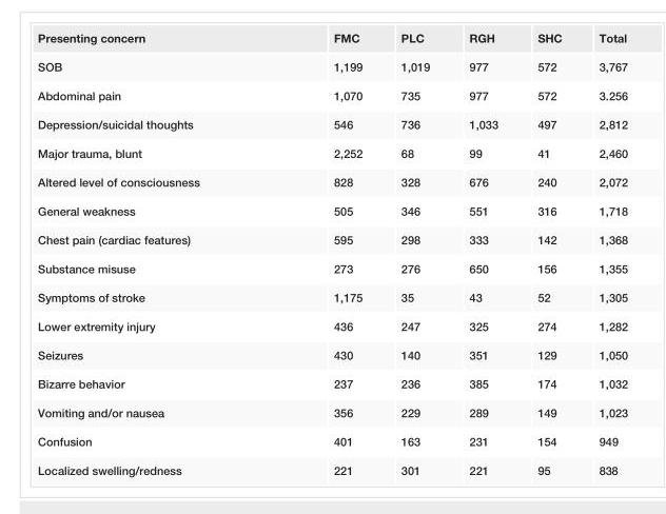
<table><tbody><tr><td>Presenting concern</td><td>FMC</td><td>PLC</td><td>RGH</td><td>SHC</td><td>Total</td></tr><tr><td>SOB</td><td>1,199</td><td>1,019</td><td>977</td><td>572</td><td>3,767</td></tr><tr><td>Abdominal pain</td><td>1,070</td><td>735</td><td>977</td><td>572</td><td>3.256</td></tr><tr><td>Depression/suicidal thoughts</td><td>546</td><td>736</td><td>1,033</td><td>497</td><td>2,812</td></tr><tr><td>Major trauma, blunt</td><td>2,252</td><td>68</td><td>99</td><td>41</td><td>2,460</td></tr><tr><td>Altered level of consciousness</td><td>828</td><td>328</td><td>676</td><td>240</td><td>2,072</td></tr><tr><td>General weakness</td><td>505</td><td>346</td><td>551</td><td>316</td><td>1,718</td></tr><tr><td>Chest pain (cardiac features)</td><td>595</td><td>298</td><td>333</td><td>142</td><td>1,368</td></tr><tr><td>Substance misuse</td><td>273</td><td>276</td><td>650</td><td>156</td><td>1,355</td></tr><tr><td>Symptoms of stroke</td><td>1,175</td><td>35</td><td>43</td><td>52</td><td>1,305</td></tr><tr><td>Lower extremity injury</td><td>436</td><td>247</td><td>325</td><td>274</td><td>1,282</td></tr><tr><td>Seizures</td><td>430</td><td>140</td><td>351</td><td>129</td><td>1,050</td></tr><tr><td>Bizarre behavior</td><td>237</td><td>236</td><td>385</td><td>174</td><td>1,032</td></tr><tr><td>Vomiting and/or nausea</td><td>356</td><td>229</td><td>289</td><td>149</td><td>1,023</td></tr><tr><td>Confusion</td><td>401</td><td>163</td><td>231</td><td>154</td><td>949</td></tr><tr><td>Localized swelling/redness</td><td>221</td><td>301</td><td>221</td><td>95</td><td>838</td></tr></tbody></table>